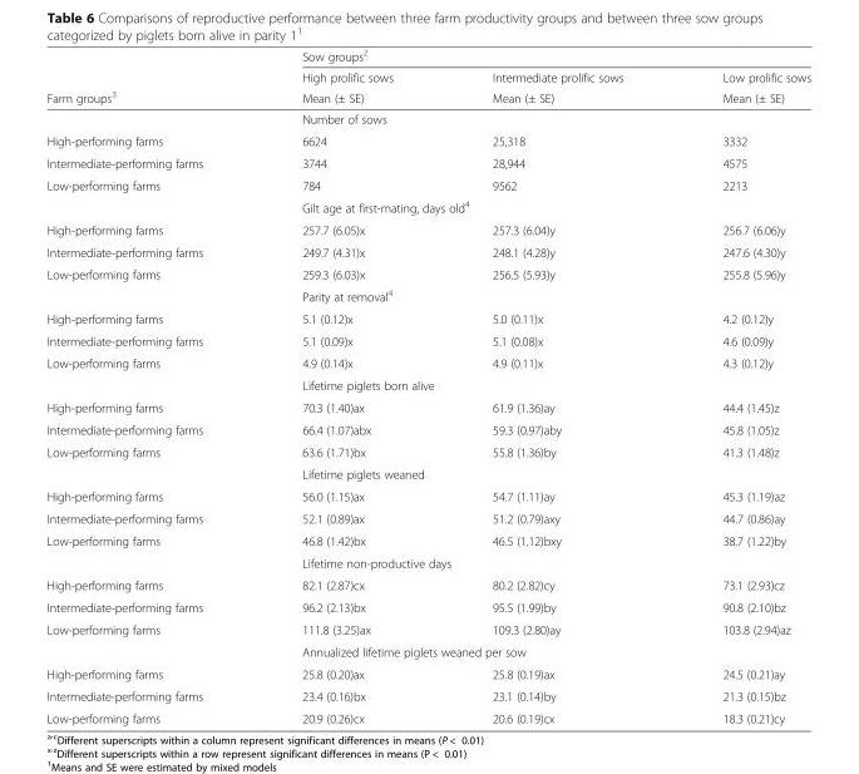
<table><thead><tr><td rowspan="3">Farm groups<sup>3</sup></td><td colspan="3">Sow groups<sup>2</sup></td></tr><tr><td rowspan="2">High prolific sows Mean (± SE)</td><td rowspan="2">Intermediate prolific sows Mean (± SE)</td><td rowspan="2">Low prolific sows Mean (± SE)</td></tr><tr></tr></thead><tbody><tr><td></td><td colspan="3">Number of sows</td></tr><tr><td>High-performing farms</td><td>6624</td><td>25,318</td><td>3332</td></tr><tr><td>Intermediate-performing farms</td><td>3744</td><td>28,944</td><td>4575</td></tr><tr><td rowspan="2">Low-performing farms</td><td>784</td><td>9562</td><td>2213</td></tr><tr><td colspan="3">Gilt age at first-mating, days old<sup>4</sup></td></tr><tr><td>High-performing farms</td><td>257.7 (6.05)x</td><td>257.3 (6.04)y</td><td>256.7 (6.06)y</td></tr><tr><td>Intermediate-performing farms</td><td>249.7 (4.31)x</td><td>248.1 (4.28)y</td><td>247.6 (4.30)y</td></tr><tr><td rowspan="2">Low-performing farms</td><td>259.3 (6.03)x</td><td>256.5 (5.93)y</td><td>255.8 (5.96)y</td></tr><tr><td colspan="3">Parity at removal<sup>4</sup></td></tr><tr><td>High-performing farms</td><td>5.1 (0.12)x</td><td>5.0 (0.11)x</td><td>4.2 (0.12)y</td></tr><tr><td>Intermediate-performing farms</td><td>5.1 (0.09)x</td><td>5.1 (0.08)x</td><td>4.6 (0.09)y</td></tr><tr><td rowspan="2">Low-performing farms</td><td>4.9 (0.14)x</td><td>4.9 (0.11)x</td><td>4.3 (0.12)y</td></tr><tr><td colspan="3">Lifetime piglets born alive</td></tr><tr><td>High-performing farms</td><td>70.3 (1.40)ax</td><td>61.9 (1.36)ay</td><td>44.4 (1.45)z</td></tr><tr><td>Intermediate-performing farms</td><td>66.4 (1.07)abx</td><td>59.3 (0.97)aby</td><td>45.8 (1.05)z</td></tr><tr><td rowspan="2">Low-performing farms</td><td>63.6 (1.71)bx</td><td>55.8 (1.36)by</td><td>41.3 (1.48)z</td></tr><tr><td colspan="3">Lifetime piglets weaned</td></tr><tr><td>High-performing farms</td><td>56.0 (1.15)ax</td><td>54.7 (1.11)ay</td><td>45.3 (1.19)az</td></tr><tr><td>Intermediate-performing farms</td><td>52.1 (0.89)ax</td><td>51.2 (0.79)axy</td><td>44.7 (0.86)ay</td></tr><tr><td rowspan="2">Low-performing farms</td><td>46.8 (1.42)bx</td><td>46.5 (1.12)bxy</td><td>38.7 (1.22)by</td></tr><tr><td colspan="3">Lifetime non-productive days</td></tr><tr><td>High-performing farms</td><td>82.1 (2.87)cx</td><td>80.2 (2.82)cy</td><td>73.1 (2.93)cz</td></tr><tr><td>Intermediate-performing farms</td><td>96.2 (2.13)bx</td><td>95.5 (1.99)by</td><td>90.8 (2.10)bz</td></tr><tr><td rowspan="2">Low-performing farms</td><td>111.8 (3.25)ax</td><td>109.3 (2.80)ay</td><td>103.8 (2.94)az</td></tr><tr><td colspan="3">Annualized lifetime piglets weaned per sow</td></tr><tr><td>High-performing farms</td><td>25.8 (0.20)ax</td><td>25.8 (0.19)ax</td><td>24.5 (0.21)ay</td></tr><tr><td>Intermediate-performing farms</td><td>23.4 (0.16)bx</td><td>23.1 (0.14)by</td><td>21.3 (0.15)bz</td></tr><tr><td>Low-performing farms</td><td>20.9 (0.26)cx</td><td>20.6 (0.19)cx</td><td>18.3 (0.21)cy</td></tr></tbody></table>